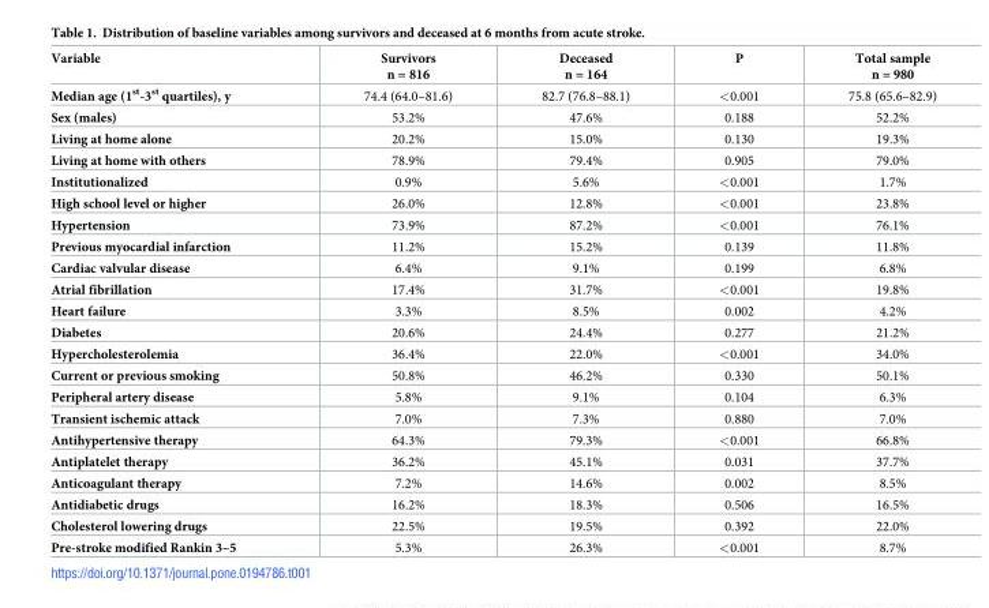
<table><thead><tr><td>Variable</td><td>Survivors n = 816</td><td>Deceased n = 164</td><td>P</td><td>Total sample n = 980</td></tr></thead><tbody><tr><td>Median age (1<sup>st</sup>-3<sup>st</sup> quartiles), y</td><td>74.4 (64.0–81.6)</td><td>82.7 (76.8–88.1)</td><td>&lt;0.001</td><td>75.8 (65.6–82.9)</td></tr><tr><td>Sex (males)</td><td>53.2%</td><td>47.6%</td><td>0.188</td><td>52.2%</td></tr><tr><td>Living at home alone</td><td>20.2%</td><td>15.0%</td><td>0.130</td><td>19.3%</td></tr><tr><td>Living at home with others</td><td>78.9%</td><td>79.4%</td><td>0.905</td><td>79.0%</td></tr><tr><td>Institutionalized</td><td>0.9%</td><td>5.6%</td><td>&lt;0.001</td><td>1.7%</td></tr><tr><td>High school level or higher</td><td>26.0%</td><td>12.8%</td><td>&lt;0.001</td><td>23.8%</td></tr><tr><td>Hypertension</td><td>73.9%</td><td>87.2%</td><td>&lt;0.001</td><td>76.1%</td></tr><tr><td>Previous myocardial infarction</td><td>11.2%</td><td>15.2%</td><td>0.139</td><td>11.8%</td></tr><tr><td>Cardiac valvular disease</td><td>6.4%</td><td>9.1%</td><td>0.199</td><td>6.8%</td></tr><tr><td>Atrial fibrillation</td><td>17.4%</td><td>31.7%</td><td>&lt;0.001</td><td>19.8%</td></tr><tr><td>Heart failure</td><td>3.3%</td><td>8.5%</td><td>0.002</td><td>4.2%</td></tr><tr><td>Diabetes</td><td>20.6%</td><td>24.4%</td><td>0.277</td><td>21.2%</td></tr><tr><td>Hypercholesterolemia</td><td>36.4%</td><td>22.0%</td><td>&lt;0.001</td><td>34.0%</td></tr><tr><td>Current or previous smoking</td><td>50.8%</td><td>46.2%</td><td>0.330</td><td>50.1%</td></tr><tr><td>Peripheral artery disease</td><td>5.8%</td><td>9.1%</td><td>0.104</td><td>6.3%</td></tr><tr><td>Transient ischemic attack</td><td>7.0%</td><td>7.3%</td><td>0.880</td><td>7.0%</td></tr><tr><td>Antihypertensive therapy</td><td>64.3%</td><td>79.3%</td><td>&lt;0.001</td><td>66.8%</td></tr><tr><td>Antiplatelet therapy</td><td>36.2%</td><td>45.1%</td><td>0.031</td><td>37.7%</td></tr><tr><td>Anticoagulant therapy</td><td>7.2%</td><td>14.6%</td><td>0.002</td><td>8.5%</td></tr><tr><td>Antidiabetic drugs</td><td>16.2%</td><td>18.3%</td><td>0.506</td><td>16.5%</td></tr><tr><td>Cholesterol lowering drugs</td><td>22.5%</td><td>19.5%</td><td>0.392</td><td>22.0%</td></tr><tr><td>Pre-stroke modified Rankin 3–5</td><td>5.3%</td><td>26.3%</td><td>&lt;0.001</td><td>8.7%</td></tr></tbody></table>